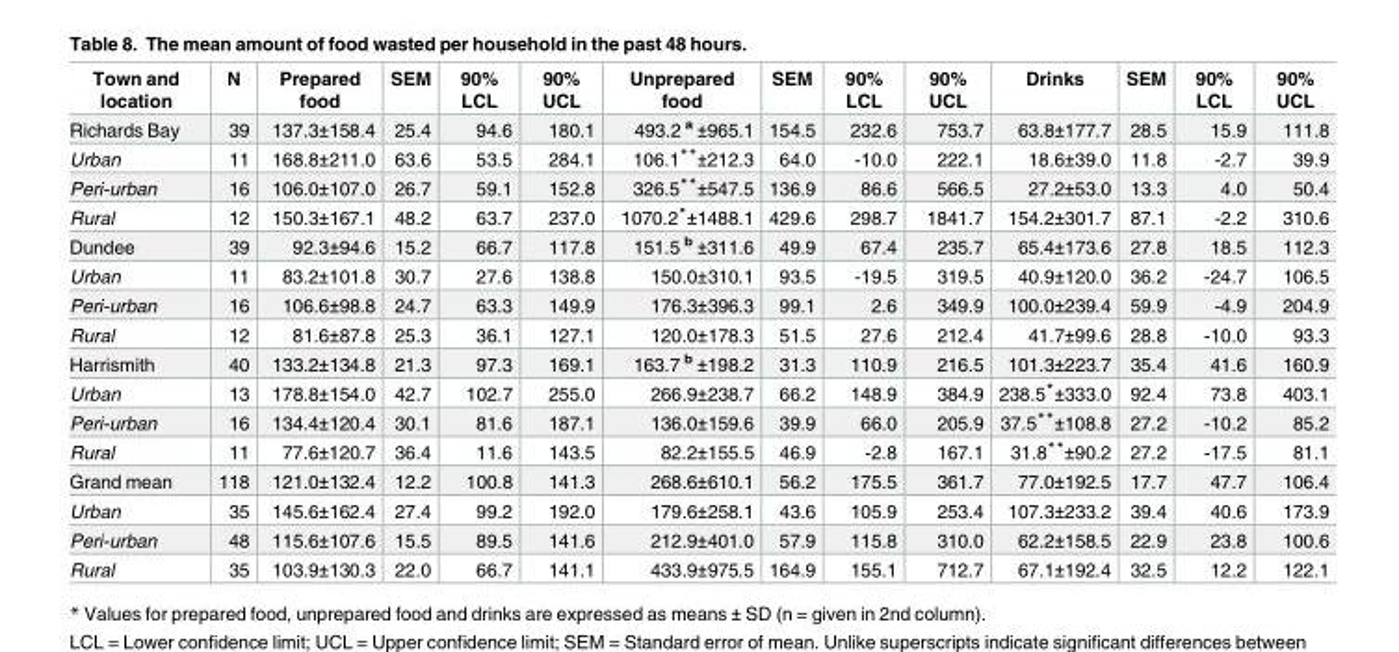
<table><thead><tr><td>Town and location</td><td>N</td><td>Prepared food</td><td>SEM</td><td>90% LCL</td><td>90% UCL</td><td>Unprepared food</td><td>SEM</td><td>90% LCL</td><td>90% UCL</td><td>Drinks</td><td>SEM</td><td>90% LCL</td><td>90% UCL</td></tr></thead><tbody><tr><td>Richards Bay</td><td>39</td><td>137.3±158.4</td><td>25.4</td><td>94.6</td><td>180.1</td><td>493.2 <sup>a</sup> ±965.1</td><td>154.5</td><td>232.6</td><td>753.7</td><td>63.8±177.7</td><td>28.5</td><td>15.9</td><td>111.8</td></tr><tr><td>Urban</td><td>11</td><td>168.8±211.0</td><td>63.6</td><td>53.5</td><td>284.1</td><td>106.1**±212.3</td><td>64.0</td><td>-10.0</td><td>222.1</td><td>18.6±39.0</td><td>11.8</td><td>-2.7</td><td>39.9</td></tr><tr><td>Peri-urban</td><td>16</td><td>106.0±107.0</td><td>26.7</td><td>59.1</td><td>152.8</td><td>326.5**±547.5</td><td>136.9</td><td>86.6</td><td>566.5</td><td>27.2±53.0</td><td>13.3</td><td>4.0</td><td>50.4</td></tr><tr><td>Rural</td><td>12</td><td>150.3±167.1</td><td>48.2</td><td>63.7</td><td>237.0</td><td>1070.2*±1488.1</td><td>429.6</td><td>298.7</td><td>1841.7</td><td>154.2±301.7</td><td>87.1</td><td>-2.2</td><td>310.6</td></tr><tr><td>Dundee</td><td>39</td><td>92.3±94.6</td><td>15.2</td><td>66.7</td><td>117.8</td><td>151.5 <sup>b</sup> ±311.6</td><td>49.9</td><td>67.4</td><td>235.7</td><td>65.4±173.6</td><td>27.8</td><td>18.5</td><td>112.3</td></tr><tr><td>Urban</td><td>11</td><td>83.2±101.8</td><td>30.7</td><td>27.6</td><td>138.8</td><td>150.0±310.1</td><td>93.5</td><td>-19.5</td><td>319.5</td><td>40.9±120.0</td><td>36.2</td><td>-24.7</td><td>106.5</td></tr><tr><td>Peri-urban</td><td>16</td><td>106.6±98.8</td><td>24.7</td><td>63.3</td><td>149.9</td><td>176.3±396.3</td><td>99.1</td><td>2.6</td><td>349.9</td><td>100.0±239.4</td><td>59.9</td><td>-4.9</td><td>204.9</td></tr><tr><td>Rural</td><td>12</td><td>81.6±87.8</td><td>25.3</td><td>36.1</td><td>127.1</td><td>120.0±178.3</td><td>51.5</td><td>27.6</td><td>212.4</td><td>41.7±99.6</td><td>28.8</td><td>-10.0</td><td>93.3</td></tr><tr><td>Harrismith</td><td>40</td><td>133.2±134.8</td><td>21.3</td><td>97.3</td><td>169.1</td><td>163.7 <sup>b</sup> ±198.2</td><td>31.3</td><td>110.9</td><td>216.5</td><td>101.3±223.7</td><td>35.4</td><td>41.6</td><td>160.9</td></tr><tr><td>Urban</td><td>13</td><td>178.8±154.0</td><td>42.7</td><td>102.7</td><td>255.0</td><td>266.9±238.7</td><td>66.2</td><td>148.9</td><td>384.9</td><td>238.5*±333.0</td><td>92.4</td><td>73.8</td><td>403.1</td></tr><tr><td>Peri-urban</td><td>16</td><td>134.4±120.4</td><td>30.1</td><td>81.6</td><td>187.1</td><td>136.0±159.6</td><td>39.9</td><td>66.0</td><td>205.9</td><td>37.5**±108.8</td><td>27.2</td><td>-10.2</td><td>85.2</td></tr><tr><td>Rural</td><td>11</td><td>77.6±120.7</td><td>36.4</td><td>11.6</td><td>143.5</td><td>82.2±155.5</td><td>46.9</td><td>-2.8</td><td>167.1</td><td>31.8**±90.2</td><td>27.2</td><td>-17.5</td><td>81.1</td></tr><tr><td>Grand mean</td><td>118</td><td>121.0±132.4</td><td>12.2</td><td>100.8</td><td>141.3</td><td>268.6±610.1</td><td>56.2</td><td>175.5</td><td>361.7</td><td>77.0±192.5</td><td>17.7</td><td>47.7</td><td>106.4</td></tr><tr><td>Urban</td><td>35</td><td>145.6±162.4</td><td>27.4</td><td>99.2</td><td>192.0</td><td>179.6±258.1</td><td>43.6</td><td>105.9</td><td>253.4</td><td>107.3±233.2</td><td>39.4</td><td>40.6</td><td>173.9</td></tr><tr><td>Peri-urban</td><td>48</td><td>115.6±107.6</td><td>15.5</td><td>89.5</td><td>141.6</td><td>212.9±401.0</td><td>57.9</td><td>115.8</td><td>310.0</td><td>62.2±158.5</td><td>22.9</td><td>23.8</td><td>100.6</td></tr><tr><td>Rural</td><td>35</td><td>103.9±130.3</td><td>22.0</td><td>66.7</td><td>141.1</td><td>433.9±975.5</td><td>164.9</td><td>155.1</td><td>712.7</td><td>67.1±192.4</td><td>32.5</td><td>12.2</td><td>122.1</td></tr></tbody></table>